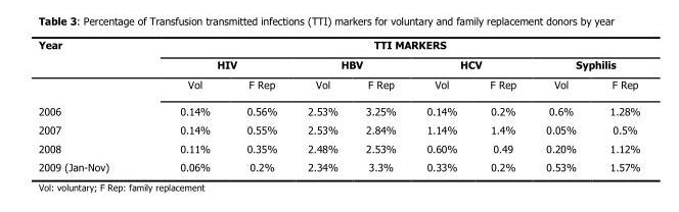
<table><thead><tr><td rowspan="3">Year</td><td colspan="8">TTI MARKERS</td></tr><tr><td colspan="2">HIV</td><td colspan="2">HBV</td><td colspan="2">HCV</td><td colspan="2">Syphilis</td></tr><tr><td>Vol</td><td>F Rep</td><td>Vol</td><td>F Rep</td><td>Vol</td><td>F Rep</td><td>Vol</td><td>F Rep</td></tr></thead><tbody><tr><td>2006</td><td>0.14%</td><td>0.56%</td><td>2.53%</td><td>3.25%</td><td>0.14%</td><td>0.2%</td><td>0.6%</td><td>1.28%</td></tr><tr><td>2007</td><td>0.14%</td><td>0.55%</td><td>2.53%</td><td>2.84%</td><td>1.14%</td><td>1.4%</td><td>0.05%</td><td>0.5%</td></tr><tr><td>2008</td><td>0.11%</td><td>0.35%</td><td>2.48%</td><td>2.53%</td><td>0.60%</td><td>0.49</td><td>0.20%</td><td>1.12%</td></tr><tr><td>2009 (Jan-Nov)</td><td>0.06%</td><td>0.2%</td><td>2.34%</td><td>3.3%</td><td>0.33%</td><td>0.2%</td><td>0.53%</td><td>1.57%</td></tr></tbody></table>